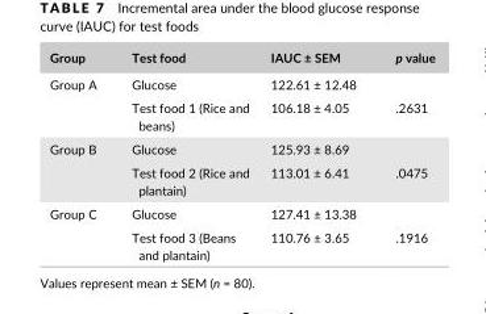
<table><thead><tr><td>Group</td><td>Test food</td><td>IAUC ± SEM</td><td>p value</td></tr></thead><tbody><tr><td rowspan="2">Group A</td><td>Glucose</td><td>122.61 ± 12.48</td><td></td></tr><tr><td>Test food 1 (Rice and beans)</td><td>106.18 ± 4.05</td><td>.2631</td></tr><tr><td rowspan="2">Group B</td><td>Glucose</td><td>125.93 ± 8.69</td><td></td></tr><tr><td>Test food 2 (Rice and plantain)</td><td>113.01 ± 6.41</td><td>.0475</td></tr><tr><td rowspan="2">Group C</td><td>Glucose</td><td>127.41 ± 13.38</td><td></td></tr><tr><td>Test food 3 (Beans and plantain)</td><td>110.76 ± 3.65</td><td>.1916</td></tr></tbody></table>